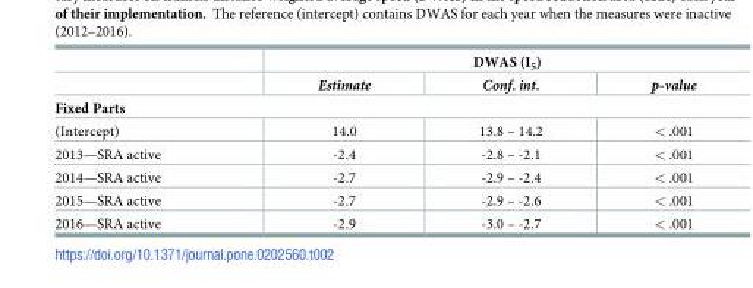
<table><thead><tr><td rowspan="2"></td><td colspan="3">DWAS (I<sub>5</sub>)</td></tr><tr><td>Estimate</td><td>Conf. int.</td><td>p-value</td></tr></thead><tbody><tr><td colspan="4">Fixed Parts</td></tr><tr><td>(Intercept)</td><td>14.0</td><td>13.8 – 14.2</td><td>&lt; .001</td></tr><tr><td>2013—SRA active</td><td>-2.4</td><td>-2.8 – -2.1</td><td>&lt; .001</td></tr><tr><td>2014—SRA active</td><td>-2.7</td><td>-2.9 – -2.4</td><td>&lt; .001</td></tr><tr><td>2015—SRA active</td><td>-2.7</td><td>-2.9 – -2.6</td><td>&lt; .001</td></tr><tr><td>2016—SRA active</td><td>-2.9</td><td>-3.0 – -2.7</td><td>&lt; .001</td></tr></tbody></table>